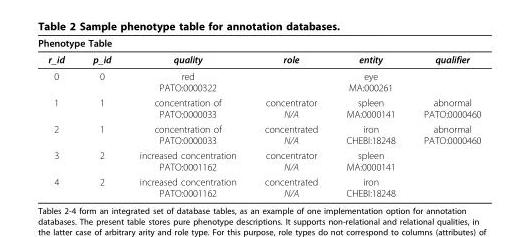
<table><thead><tr><td colspan="6">Phenotype Table</td></tr><tr><td>r_id</td><td>p_id</td><td>quality</td><td>role</td><td>entity</td><td>qualifier</td></tr></thead><tbody><tr><td>0</td><td>0</td><td>red PATO:0000322</td><td></td><td>eye MA:000261</td><td></td></tr><tr><td>1</td><td>1</td><td>concentration of PATO:0000033</td><td>concentrator N/A</td><td>spleen MA:0000141</td><td>abnormal PATO:0000460</td></tr><tr><td>2</td><td>1</td><td>concentration of PATO:0000033</td><td>concentrated N/A</td><td>iron CHEBI:18248</td><td>abnormal PATO:0000460</td></tr><tr><td>3</td><td>2</td><td>increased concentration PATO:0001162</td><td>concentrator N/A</td><td>spleen MA:0000141</td><td></td></tr><tr><td>4</td><td>2</td><td>increased concentration PATO:0001162</td><td>concentrated N/A</td><td>iron CHEBI:18248</td><td></td></tr></tbody></table>